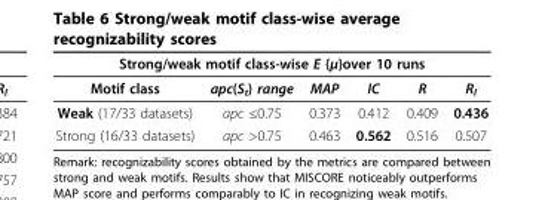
<table><thead><tr><td colspan="6">Strong/weak motif class-wise E {μ}over 10 runs</td></tr><tr><td>Motif class</td><td>apc(S<sub>t</sub>) range</td><td>MAP</td><td>IC</td><td>R</td><td>R<sub>l</sub></td></tr></thead><tbody><tr><td>Weak (17/33 datasets)</td><td>apc ≤0.75</td><td>0.373</td><td>0.412</td><td>0.409</td><td>0.436</td></tr><tr><td>Strong (16/33 datasets)</td><td>apc &gt;0.75</td><td>0.463</td><td>0.562</td><td>0.516</td><td>0.507</td></tr></tbody></table>